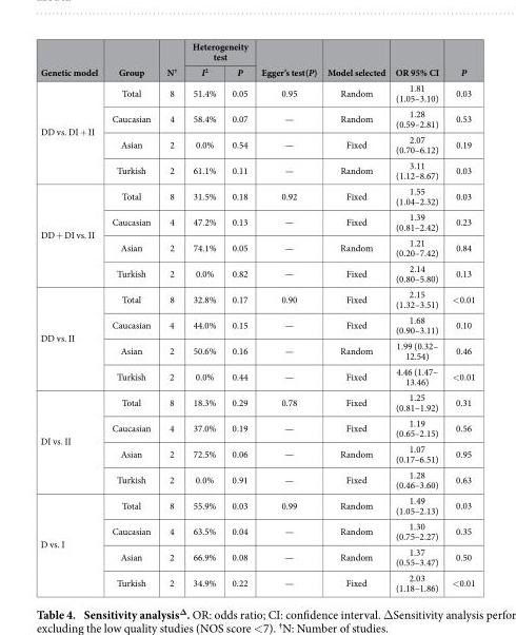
<table><thead><tr><td rowspan="2">Genetic model</td><td rowspan="2">Group</td><td rowspan="2">N†</td><td colspan="2">Heterogeneity test</td><td rowspan="2">Egger’s test(P)</td><td rowspan="2">Model selected</td><td rowspan="2">OR 95% CI</td><td rowspan="2">P</td></tr><tr><td>I<sup>2</sup></td><td>P</td></tr></thead><tbody><tr><td rowspan="4">DD vs. DI + II</td><td>Total</td><td>8</td><td>51.4%</td><td>0.05</td><td>0.95</td><td>Random</td><td>1.81 (1.05–3.10)</td><td>0.03</td></tr><tr><td>Caucasian</td><td>4</td><td>58.4%</td><td>0.07</td><td>—</td><td>Random</td><td>1.28 (0.59–2.81)</td><td>0.53</td></tr><tr><td>Asian</td><td>2</td><td>0.0%</td><td>0.54</td><td>—</td><td>Fixed</td><td>2.07 (0.70–6.12)</td><td>0.19</td></tr><tr><td>Turkish</td><td>2</td><td>61.1%</td><td>0.11</td><td>—</td><td>Random</td><td>3.11 (1.12–8.67)</td><td>0.03</td></tr><tr><td rowspan="4">DD + DI vs. II</td><td>Total</td><td>8</td><td>31.5%</td><td>0.18</td><td>0.92</td><td>Fixed</td><td>1.55 (1.04–2.32)</td><td>0.03</td></tr><tr><td>Caucasian</td><td>4</td><td>47.2%</td><td>0.13</td><td>—</td><td>Fixed</td><td>1.39 (0.81–2.42)</td><td>0.23</td></tr><tr><td>Asian</td><td>2</td><td>74.1%</td><td>0.05</td><td>—</td><td>Random</td><td>1.21 (0.20–7.42)</td><td>0.84</td></tr><tr><td>Turkish</td><td>2</td><td>0.0%</td><td>0.82</td><td>—</td><td>Fixed</td><td>2.14 (0.80–5.80)</td><td>0.13</td></tr><tr><td rowspan="4">DD vs. II</td><td>Total</td><td>8</td><td>32.8%</td><td>0.17</td><td>0.90</td><td>Fixed</td><td>2.15 (1.32–3.51)</td><td>&lt; 0.01</td></tr><tr><td>Caucasian</td><td>4</td><td>44.0%</td><td>0.15</td><td>—</td><td>Fixed</td><td>1.68 (0.90–3.11)</td><td>0.10</td></tr><tr><td>Asian</td><td>2</td><td>50.6%</td><td>0.16</td><td>—</td><td>Random</td><td>1.99 (0.32– 12.54)</td><td>0.46</td></tr><tr><td>Turkish</td><td>2</td><td>0.0%</td><td>0.44</td><td>—</td><td>Fixed</td><td>4.46 (1.47– 13.46)</td><td>&lt; 0.01</td></tr><tr><td rowspan="4">DI vs. II</td><td>Total</td><td>8</td><td>18.3%</td><td>0.29</td><td>0.78</td><td>Fixed</td><td>1.25 (0.81–1.92)</td><td>0.31</td></tr><tr><td>Caucasian</td><td>4</td><td>37.0%</td><td>0.19</td><td>—</td><td>Fixed</td><td>1.19 (0.65–2.15)</td><td>0.56</td></tr><tr><td>Asian</td><td>2</td><td>72.5%</td><td>0.06</td><td>—</td><td>Random</td><td>1.07 (0.17–6.51)</td><td>0.95</td></tr><tr><td>Turkish</td><td>2</td><td>0.0%</td><td>0.91</td><td>—</td><td>Fixed</td><td>1.28 (0.46–3.60)</td><td>0.63</td></tr><tr><td rowspan="4">D vs. I</td><td>Total</td><td>8</td><td>55.9%</td><td>0.03</td><td>0.99</td><td>Random</td><td>1.49 (1.05–2.13)</td><td>0.03</td></tr><tr><td>Caucasian</td><td>4</td><td>63.5%</td><td>0.04</td><td>—</td><td>Random</td><td>1.30 (0.75–2.27)</td><td>0.35</td></tr><tr><td>Asian</td><td>2</td><td>66.9%</td><td>0.08</td><td>—</td><td>Random</td><td>1.37 (0.55–3.47)</td><td>0.50</td></tr><tr><td>Turkish</td><td>2</td><td>34.9%</td><td>0.22</td><td>—</td><td>Fixed</td><td>2.03 (1.18–1.86)</td><td>&lt; 0.01</td></tr></tbody></table>